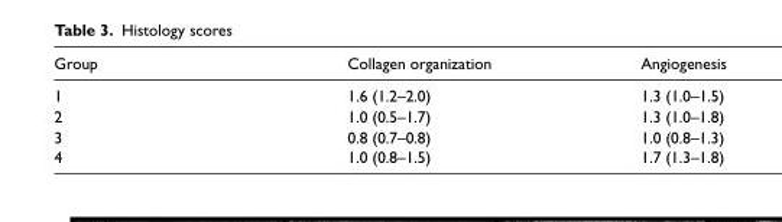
<table><thead><tr><td>Group</td><td>Collagen organization</td><td>Angiogenesis</td></tr></thead><tbody><tr><td>1</td><td>1.6 (1.2–2.0)</td><td>1.3 (1.0–1.5)</td></tr><tr><td>2</td><td>1.0 (0.5–1.7)</td><td>1.3 (1.0–1.8)</td></tr><tr><td>3</td><td>0.8 (0.7–0.8)</td><td>1.0 (0.8–1.3)</td></tr><tr><td>4</td><td>1.0 (0.8–1.5)</td><td>1.7 (1.3–1.8)</td></tr></tbody></table>